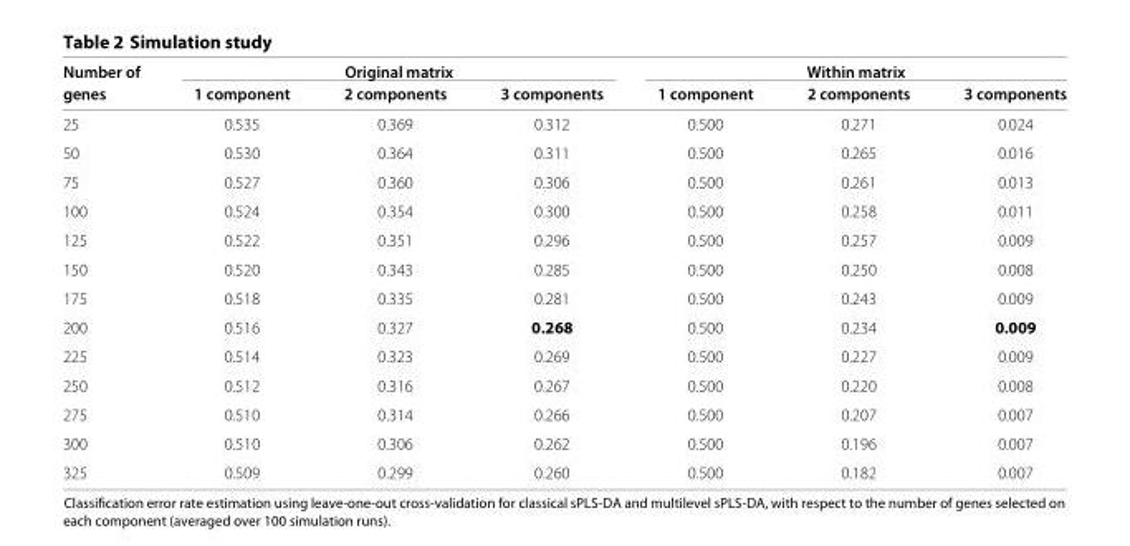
<table><thead><tr><td rowspan="2">Number of genes</td><td colspan="3">Original matrix</td><td colspan="3">Within matrix</td></tr><tr><td>1 component</td><td>2 components</td><td>3 components</td><td>1 component</td><td>2 components</td><td>3 components</td></tr></thead><tbody><tr><td>25</td><td>0.535</td><td>0.369</td><td>0.312</td><td>0.500</td><td>0.271</td><td>0.024</td></tr><tr><td>50</td><td>0.530</td><td>0.364</td><td>0.311</td><td>0.500</td><td>0.265</td><td>0.016</td></tr><tr><td>75</td><td>0.527</td><td>0.360</td><td>0.306</td><td>0.500</td><td>0.261</td><td>0.013</td></tr><tr><td>100</td><td>0.524</td><td>0.354</td><td>0.300</td><td>0.500</td><td>0.258</td><td>0.011</td></tr><tr><td>125</td><td>0.522</td><td>0.351</td><td>0.296</td><td>0.500</td><td>0.257</td><td>0.009</td></tr><tr><td>150</td><td>0.520</td><td>0.343</td><td>0.285</td><td>0.500</td><td>0.250</td><td>0.008</td></tr><tr><td>175</td><td>0.518</td><td>0.335</td><td>0.281</td><td>0.500</td><td>0.243</td><td>0.009</td></tr><tr><td>200</td><td>0.516</td><td>0.327</td><td>0.268</td><td>0.500</td><td>0.234</td><td>0.009</td></tr><tr><td>225</td><td>0.514</td><td>0.323</td><td>0.269</td><td>0.500</td><td>0.227</td><td>0.009</td></tr><tr><td>250</td><td>0.512</td><td>0.316</td><td>0.267</td><td>0.500</td><td>0.220</td><td>0.008</td></tr><tr><td>275</td><td>0.510</td><td>0.314</td><td>0.266</td><td>0.500</td><td>0.207</td><td>0.007</td></tr><tr><td>300</td><td>0.510</td><td>0.306</td><td>0.262</td><td>0.500</td><td>0.196</td><td>0.007</td></tr><tr><td>325</td><td>0.509</td><td>0.299</td><td>0.260</td><td>0.500</td><td>0.182</td><td>0.007</td></tr></tbody></table>